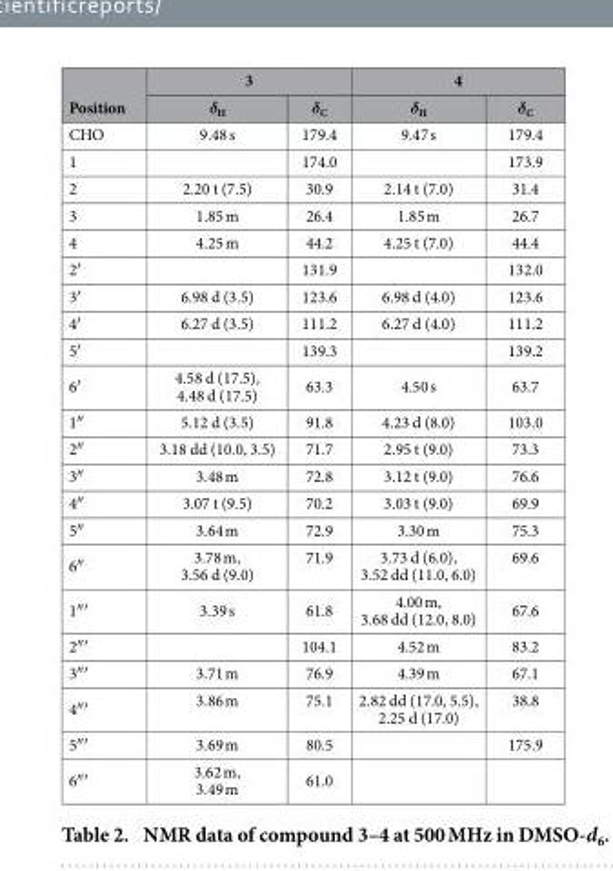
<table><thead><tr><td rowspan="2">Position</td><td colspan="2">3</td><td colspan="2">4</td></tr><tr><td>δ<sub>H</sub></td><td>δ<sub>C</sub></td><td>δ<sub>H</sub></td><td>δ<sub>C</sub></td></tr></thead><tbody><tr><td>CHO</td><td>9.48 s</td><td>179.4</td><td>9.47 s</td><td>179.4</td></tr><tr><td>1</td><td></td><td>174.0</td><td></td><td>173.9</td></tr><tr><td>2</td><td>2.20 t (7.5)</td><td>30.9</td><td>2.14 t (7.0)</td><td>31.4</td></tr><tr><td>3</td><td>1.85 m</td><td>26.4</td><td>1.85 m</td><td>26.7</td></tr><tr><td>4</td><td>4.25 m</td><td>44.2</td><td>4.25 t (7.0)</td><td>44.4</td></tr><tr><td>2′</td><td></td><td>131.9</td><td></td><td>132.0</td></tr><tr><td>3′</td><td>6.98 d (3.5)</td><td>123.6</td><td>6.98 d (4.0)</td><td>123.6</td></tr><tr><td>4′</td><td>6.27 d (3.5)</td><td>111.2</td><td>6.27 d (4.0)</td><td>111.2</td></tr><tr><td>5′</td><td></td><td>139.3</td><td></td><td>139.2</td></tr><tr><td>6′</td><td>4.58 d (17.5), 4.48 d (17.5)</td><td>63.3</td><td>4.50 s</td><td>63.7</td></tr><tr><td>1″</td><td>5.12 d (3.5)</td><td>91.8</td><td>4.23 d (8.0)</td><td>103.0</td></tr><tr><td>2″</td><td>3.18 dd (10.0, 3.5)</td><td>71.7</td><td>2.95 t (9.0)</td><td>73.3</td></tr><tr><td>3″</td><td>3.48 m</td><td>72.8</td><td>3.12 t (9.0)</td><td>76.6</td></tr><tr><td>4″</td><td>3.07 t (9.5)</td><td>70.2</td><td>3.03 t (9.0)</td><td>69.9</td></tr><tr><td>5″</td><td>3.64 m</td><td>72.9</td><td>3.30 m</td><td>75.3</td></tr><tr><td>6″</td><td>3.78 m, 3.56 d (9.0)</td><td>71.9</td><td>3.73 d (6.0), 3.52 dd (11.0, 6.0)</td><td>69.6</td></tr><tr><td>1″ ′</td><td>3.39 s</td><td>61.8</td><td>4.00 m, 3.68 dd (12.0, 8.0)</td><td>67.6</td></tr><tr><td>2″ ′</td><td></td><td>104.1</td><td>4.52 m</td><td>83.2</td></tr><tr><td>3″ ′</td><td>3.71 m</td><td>76.9</td><td>4.39 m</td><td>67.1</td></tr><tr><td>4″ ′</td><td>3.86 m</td><td>75.1</td><td>2.82 dd (17.0, 5.5), 2.25 d (17.0)</td><td>38.8</td></tr><tr><td>5″ ′</td><td>3.69 m</td><td>80.5</td><td></td><td>175.9</td></tr><tr><td>6″ ′</td><td>3.62 m, 3.49 m</td><td>61.0</td><td></td><td></td></tr></tbody></table>